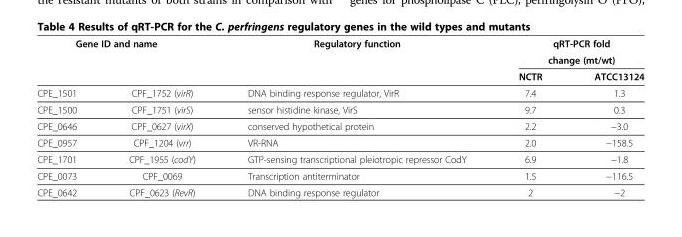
<table><thead><tr><td colspan="2">Gene ID and name</td><td rowspan="3">Regulatory function</td><td rowspan="2" colspan="2">qRT-PCR fold change (mt/wt)</td></tr><tr><td rowspan="2"></td><td rowspan="2"></td></tr><tr><td>NCTR</td><td>ATCC13124</td></tr></thead><tbody><tr><td>CPE_1501</td><td>CPF_1752 (virR)</td><td>DNA binding response regulator, VirR</td><td>7.4</td><td>1.3</td></tr><tr><td>CPE_1500</td><td>CPF_1751 (virS)</td><td>sensor histidine kinase, VirS</td><td>9.7</td><td>0.3</td></tr><tr><td>CPE_0646</td><td>CPF_0627 (virX)</td><td>conserved hypothetical protein</td><td>2.2</td><td>−3.0</td></tr><tr><td>CPE_0957</td><td>CPF_1204 (vrr)</td><td>VR-RNA</td><td>2.0</td><td>−158.5</td></tr><tr><td>CPE_1701</td><td>CPF_1955 (codY)</td><td>GTP-sensing transcriptional pleiotropic repressor CodY</td><td>6.9</td><td>−1.8</td></tr><tr><td>CPE_0073</td><td>CPF_0069</td><td>Transcription antiterminator</td><td>1.5</td><td>−116.5</td></tr><tr><td>CPE_0642</td><td>CPF_0623 (RevR)</td><td>DNA binding response regulator</td><td>2</td><td>−2</td></tr></tbody></table>